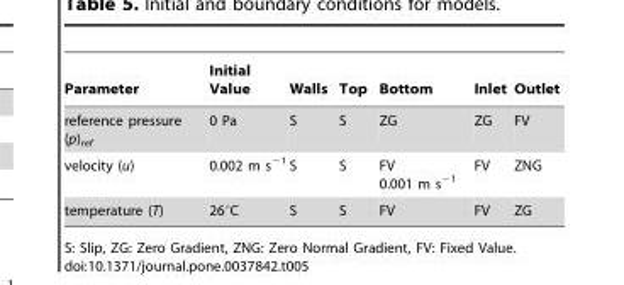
<table><thead><tr><td>Parameter</td><td>Initial Value</td><td>Walls</td><td>Top</td><td>Bottom</td><td>Inlet</td><td>Outlet</td></tr></thead><tbody><tr><td>reference pressure (p)<sub>ref</sub></td><td>0 Pa</td><td>S</td><td>S</td><td>ZG</td><td>ZG</td><td>FV</td></tr><tr><td>velocity (u)</td><td>0.002 m s<sup>−1</sup></td><td>S</td><td>S</td><td>FV 0.001 m s<sup>−1</sup></td><td>FV</td><td>ZNG</td></tr><tr><td>temperature (T)</td><td>26°C</td><td>S</td><td>S</td><td>FV</td><td>FV</td><td>ZG</td></tr></tbody></table>